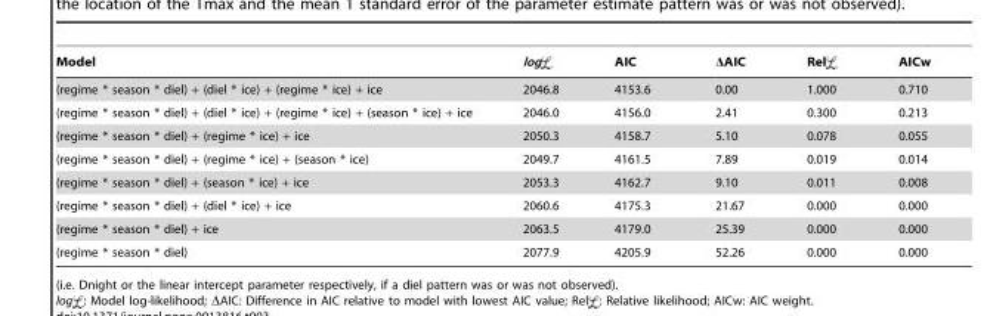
<table><thead><tr><td>Model</td><td>log</td><td>AIC</td><td>ΔAIC</td><td>Rel</td><td>AICw</td></tr></thead><tbody><tr><td>(regime * season * diel) + (diel * ice) + (regime * ice) + ice</td><td>2046.8</td><td>4153.6</td><td>0.00</td><td>1.000</td><td>0.710</td></tr><tr><td>(regime * season * diel) + (diel * ice) + (regime * ice) + (season * ice) + ice</td><td>2046.0</td><td>4156.0</td><td>2.41</td><td>0.300</td><td>0.213</td></tr><tr><td>(regime * season * diel) + (regime * ice) + ice</td><td>2050.3</td><td>4158.7</td><td>5.10</td><td>0.078</td><td>0.055</td></tr><tr><td>(regime * season * diel) + (regime * ice) + (season * ice)</td><td>2049.7</td><td>4161.5</td><td>7.89</td><td>0.019</td><td>0.014</td></tr><tr><td>(regime * season * diel) + (season * ice) + ice</td><td>2053.3</td><td>4162.7</td><td>9.10</td><td>0.011</td><td>0.008</td></tr><tr><td>(regime * season * diel) + (diel * ice) + ice</td><td>2060.6</td><td>4175.3</td><td>21.67</td><td>0.000</td><td>0.000</td></tr><tr><td>(regime * season * diel) + ice</td><td>2063.5</td><td>4179.0</td><td>25.39</td><td>0.000</td><td>0.000</td></tr><tr><td>(regime * season * diel)</td><td>2077.9</td><td>4205.9</td><td>52.26</td><td>0.000</td><td>0.000</td></tr></tbody></table>